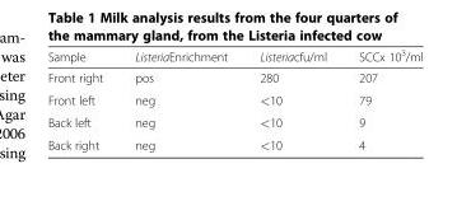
<table><thead><tr><td>Sample</td><td>ListeriaEnrichment</td><td>Listeriacfu/ml</td><td>SCCx 10<sup>3</sup>/ml</td></tr></thead><tbody><tr><td>Front right</td><td>pos</td><td>280</td><td>207</td></tr><tr><td>Front left</td><td>neg</td><td>&lt;10</td><td>79</td></tr><tr><td>Back left</td><td>neg</td><td>&lt;10</td><td>9</td></tr><tr><td>Back right</td><td>neg</td><td>&lt;10</td><td>4</td></tr></tbody></table>